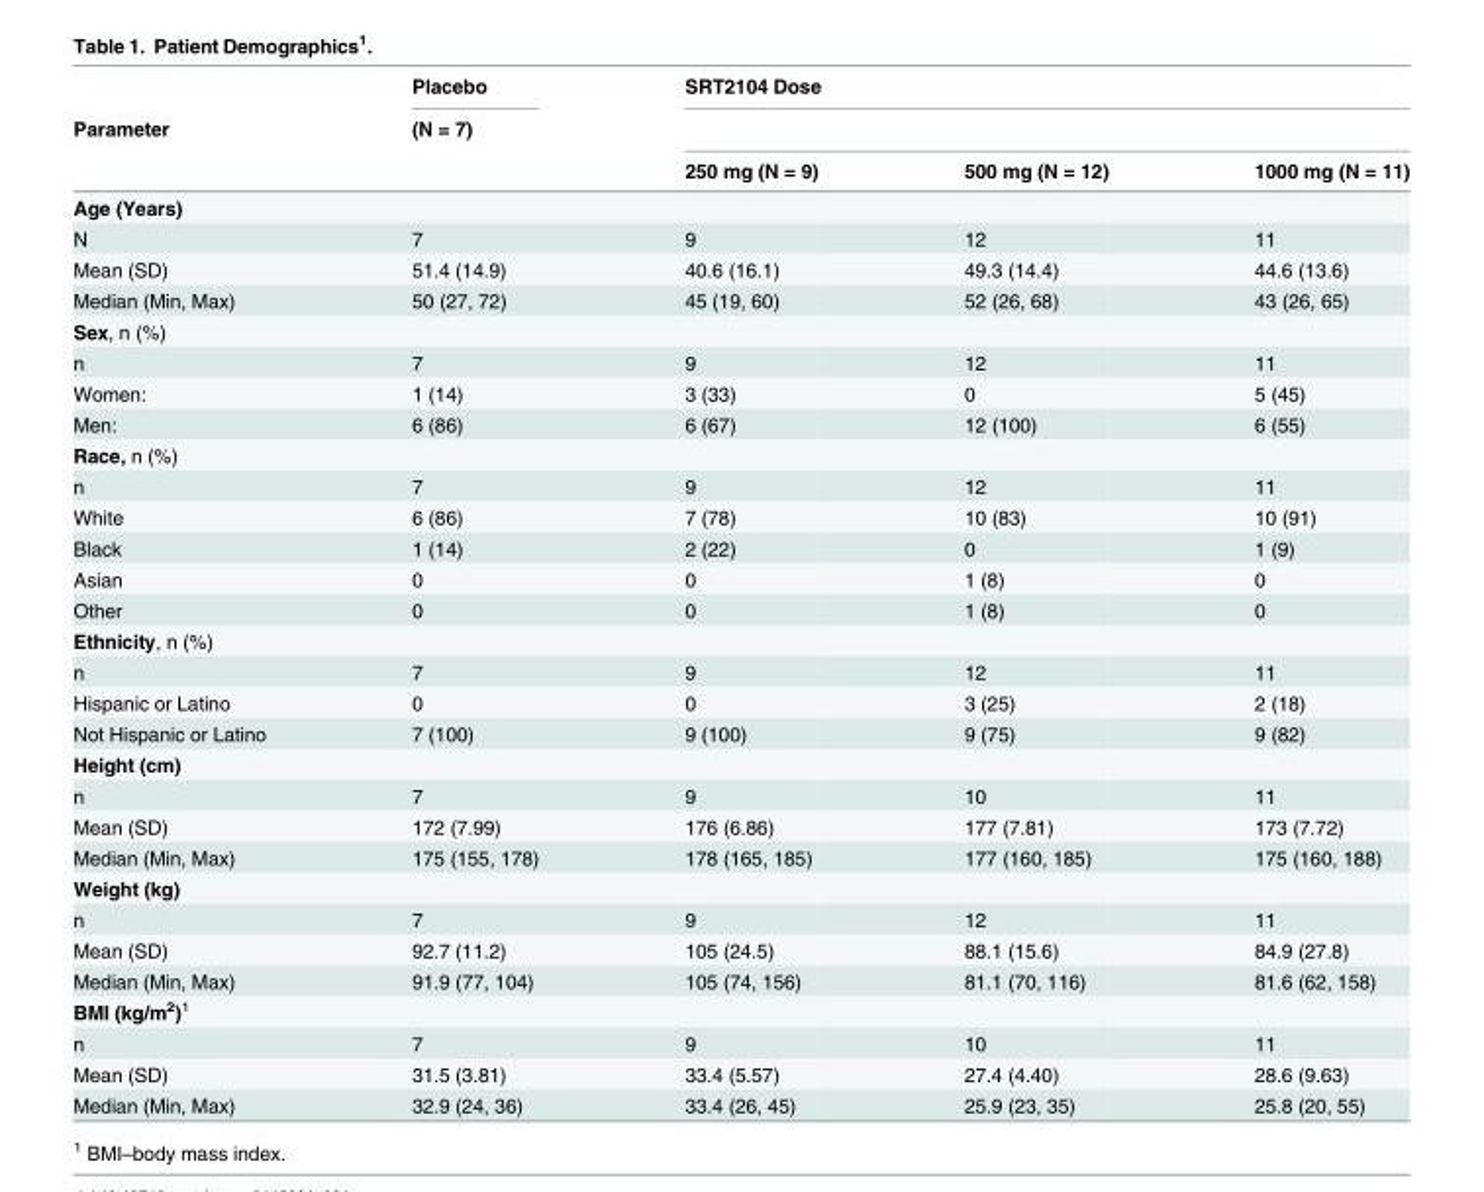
<table><thead><tr><td rowspan="3">Parameter</td><td rowspan="3">Placebo (N = 7)</td><td colspan="3">SRT2104 Dose</td></tr><tr><td rowspan="2">250 mg (N = 9)</td><td rowspan="2">500 mg (N = 12)</td><td rowspan="2">1000 mg (N = 11)</td></tr><tr></tr></thead><tbody><tr><td colspan="5">Age (Years)</td></tr><tr><td>N</td><td>7</td><td>9</td><td>12</td><td>11</td></tr><tr><td>Mean (SD)</td><td>51.4 (14.9)</td><td>40.6 (16.1)</td><td>49.3 (14.4)</td><td>44.6 (13.6)</td></tr><tr><td>Median (Min, Max)</td><td>50 (27, 72)</td><td>45 (19, 60)</td><td>52 (26, 68)</td><td>43 (26, 65)</td></tr><tr><td colspan="5">Sex, n (%)</td></tr><tr><td>n</td><td>7</td><td>9</td><td>12</td><td>11</td></tr><tr><td>Women:</td><td>1 (14)</td><td>3 (33)</td><td>0</td><td>5 (45)</td></tr><tr><td>Men:</td><td>6 (86)</td><td>6 (67)</td><td>12 (100)</td><td>6 (55)</td></tr><tr><td colspan="5">Race, n (%)</td></tr><tr><td>n</td><td>7</td><td>9</td><td>12</td><td>11</td></tr><tr><td>White</td><td>6 (86)</td><td>7 (78)</td><td>10 (83)</td><td>10 (91)</td></tr><tr><td>Black</td><td>1 (14)</td><td>2 (22)</td><td>0</td><td>1 (9)</td></tr><tr><td>Asian</td><td>0</td><td>0</td><td>1 (8)</td><td>0</td></tr><tr><td>Other</td><td>0</td><td>0</td><td>1 (8)</td><td>0</td></tr><tr><td colspan="5">Ethnicity, n (%)</td></tr><tr><td>n</td><td>7</td><td>9</td><td>12</td><td>11</td></tr><tr><td>Hispanic or Latino</td><td>0</td><td>0</td><td>3 (25)</td><td>2 (18)</td></tr><tr><td>Not Hispanic or Latino</td><td>7 (100)</td><td>9 (100)</td><td>9 (75)</td><td>9 (82)</td></tr><tr><td colspan="5">Height (cm)</td></tr><tr><td>n</td><td>7</td><td>9</td><td>10</td><td>11</td></tr><tr><td>Mean (SD)</td><td>172 (7.99)</td><td>176 (6.86)</td><td>177 (7.81)</td><td>173 (7.72)</td></tr><tr><td>Median (Min, Max)</td><td>175 (155, 178)</td><td>178 (165, 185)</td><td>177 (160, 185)</td><td>175 (160, 188)</td></tr><tr><td colspan="5">Weight (kg)</td></tr><tr><td>n</td><td>7</td><td>9</td><td>12</td><td>11</td></tr><tr><td>Mean (SD)</td><td>92.7 (11.2)</td><td>105 (24.5)</td><td>88.1 (15.6)</td><td>84.9 (27.8)</td></tr><tr><td>Median (Min, Max)</td><td>91.9 (77, 104)</td><td>105 (74, 156)</td><td>81.1 (70, 116)</td><td>81.6 (62, 158)</td></tr><tr><td colspan="5">BMI (kg/m<sup>2</sup>)<sup>1</sup></td></tr><tr><td>n</td><td>7</td><td>9</td><td>10</td><td>11</td></tr><tr><td>Mean (SD)</td><td>31.5 (3.81)</td><td>33.4 (5.57)</td><td>27.4 (4.40)</td><td>28.6 (9.63)</td></tr><tr><td>Median (Min, Max)</td><td>32.9 (24, 36)</td><td>33.4 (26, 45)</td><td>25.9 (23, 35)</td><td>25.8 (20, 55)</td></tr></tbody></table>